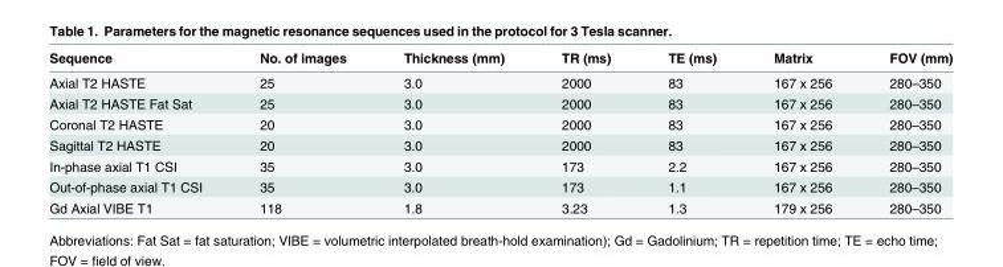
<table><thead><tr><td>Sequence</td><td>No. of images</td><td>Thickness (mm)</td><td>TR (ms)</td><td>TE (ms)</td><td>Matrix</td><td>FOV (mm)</td></tr></thead><tbody><tr><td>Axial T2 HASTE</td><td>25</td><td>3.0</td><td>2000</td><td>83</td><td>167 x 256</td><td>280–350</td></tr><tr><td>Axial T2 HASTE Fat Sat</td><td>25</td><td>3.0</td><td>2000</td><td>83</td><td>167 x 256</td><td>280–350</td></tr><tr><td>Coronal T2 HASTE</td><td>20</td><td>3.0</td><td>2000</td><td>83</td><td>167 x 256</td><td>280–350</td></tr><tr><td>Sagittal T2 HASTE</td><td>20</td><td>3.0</td><td>2000</td><td>83</td><td>167 x 256</td><td>280–350</td></tr><tr><td>In-phase axial T1 CSI</td><td>35</td><td>3.0</td><td>173</td><td>2.2</td><td>167 x 256</td><td>280–350</td></tr><tr><td>Out-of-phase axial T1 CSI</td><td>35</td><td>3.0</td><td>173</td><td>1.1</td><td>167 x 256</td><td>280–350</td></tr><tr><td>Gd Axial VIBE T1</td><td>118</td><td>1.8</td><td>3.23</td><td>1.3</td><td>179 x 256</td><td>280–350</td></tr></tbody></table>